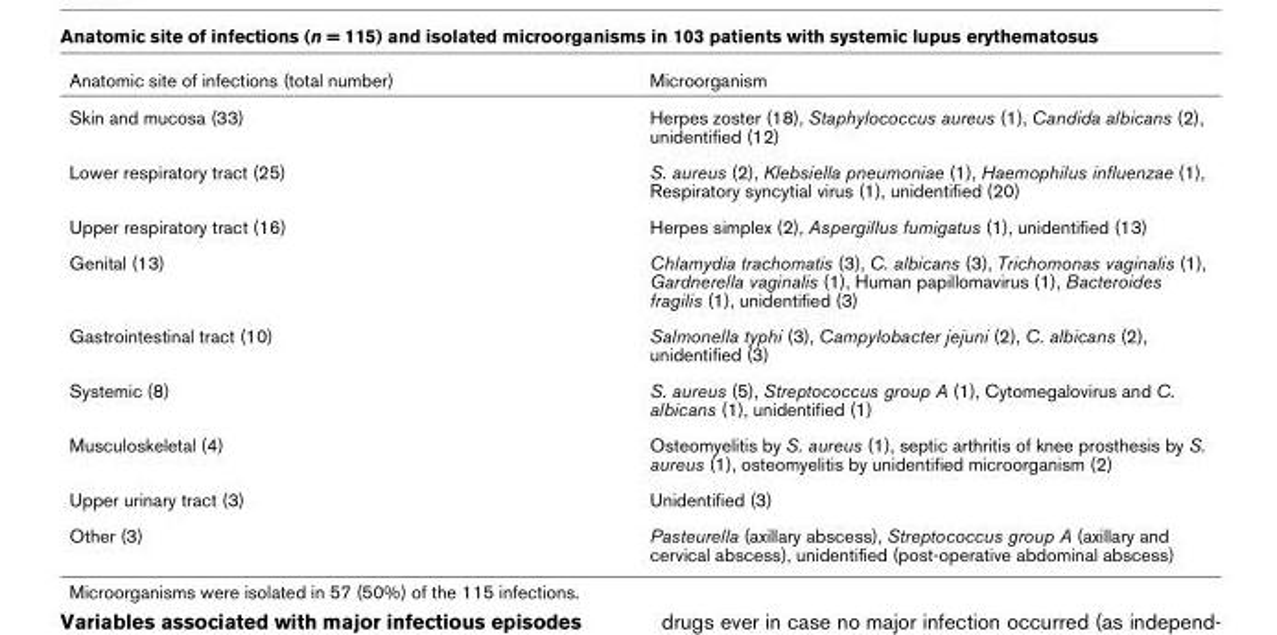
<table><thead><tr><td>Anatomic site of infections (total number)</td><td>Microorganism</td></tr></thead><tbody><tr><td>Skin and mucosa (33)</td><td>Herpes zoster (18), Staphylococcus aureus (1), Candida albicans (2), unidentified (12)</td></tr><tr><td>Lower respiratory tract (25)</td><td>S. aureus (2), Klebsiella pneumoniae (1), Haemophilus influenzae (1), Respiratory syncytial virus (1), unidentified (20)</td></tr><tr><td>Upper respiratory tract (16)</td><td>Herpes simplex (2), Aspergillus fumigatus (1), unidentified (13)</td></tr><tr><td>Genital (13)</td><td>Chlamydia trachomatis (3), C. albicans (3), Trichomonas vaginalis (1), Gardnerella vaginalis (1), Human papillomavirus (1), Bacteroides fragilis (1), unidentified (3)</td></tr><tr><td>Gastrointestinal tract (10)</td><td>Salmonella typhi (3), Campylobacter jejuni (2), C. albicans (2), unidentified (3)</td></tr><tr><td>Systemic (8)</td><td>S. aureus (5), Streptococcus group A (1), Cytomegalovirus and C. albicans (1), unidentified (1)</td></tr><tr><td>Musculoskeletal (4)</td><td>Osteomyelitis by S. aureus (1), septic arthritis of knee prosthesis by S. aureus (1), osteomyelitis by unidentified microorganism (2)</td></tr><tr><td>Upper urinary tract (3)</td><td>Unidentified (3)</td></tr><tr><td>Other (3)</td><td>Pasteurella (axillary abscess), Streptococcus group A (axillary and cervical abscess), unidentified (post-operative abdominal abscess)</td></tr></tbody></table>